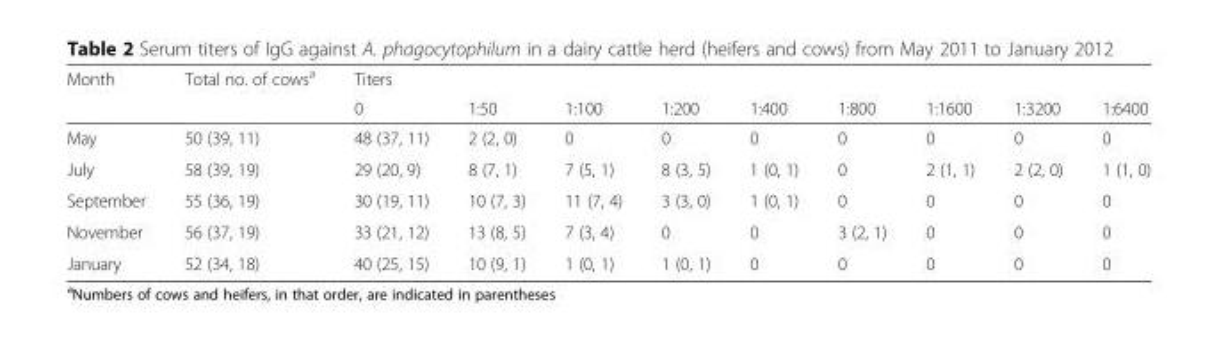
<table><thead><tr><td rowspan="2">Month</td><td rowspan="2">Total no. of cows<sup>a</sup></td><td colspan="9">Titers</td></tr><tr><td>0</td><td>1:50</td><td>1:100</td><td>1:200</td><td>1:400</td><td>1:800</td><td>1:1600</td><td>1:3200</td><td>1:6400</td></tr></thead><tbody><tr><td>May</td><td>50 (39, 11)</td><td>48 (37, 11)</td><td>2 (2, 0)</td><td>0</td><td>0</td><td>0</td><td>0</td><td>0</td><td>0</td><td>0</td></tr><tr><td>July</td><td>58 (39, 19)</td><td>29 (20, 9)</td><td>8 (7, 1)</td><td>7 (5, 1)</td><td>8 (3, 5)</td><td>1 (0, 1)</td><td>0</td><td>2 (1, 1)</td><td>2 (2, 0)</td><td>1 (1, 0)</td></tr><tr><td>September</td><td>55 (36, 19)</td><td>30 (19, 11)</td><td>10 (7, 3)</td><td>11 (7, 4)</td><td>3 (3, 0)</td><td>1 (0, 1)</td><td>0</td><td>0</td><td>0</td><td>0</td></tr><tr><td>November</td><td>56 (37, 19)</td><td>33 (21, 12)</td><td>13 (8, 5)</td><td>7 (3, 4)</td><td>0</td><td>0</td><td>3 (2, 1)</td><td>0</td><td>0</td><td>0</td></tr><tr><td>January</td><td>52 (34, 18)</td><td>40 (25, 15)</td><td>10 (9, 1)</td><td>1 (0, 1)</td><td>1 (0, 1)</td><td>0</td><td>0</td><td>0</td><td>0</td><td>0</td></tr></tbody></table>